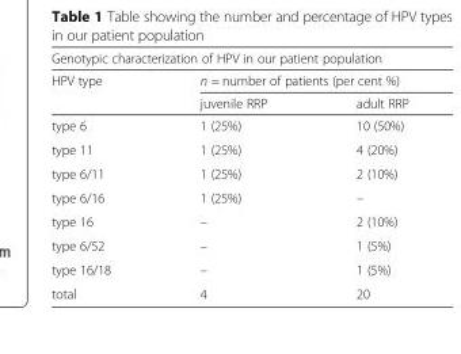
<table><thead><tr><td colspan="3">Genotypic characterization of HPV in our patient population</td></tr><tr><td rowspan="2">HPV type</td><td colspan="2">n = number of patients (per cent %)</td></tr><tr><td>juvenile RRP</td><td>adult RRP</td></tr></thead><tbody><tr><td>type 6</td><td>1 (25%)</td><td>10 (50%)</td></tr><tr><td>type 11</td><td>1 (25%)</td><td>4 (20%)</td></tr><tr><td>type 6/11</td><td>1 (25%)</td><td>2 (10%)</td></tr><tr><td>type 6/16</td><td>1 (25%)</td><td>–</td></tr><tr><td>type 16</td><td>–</td><td>2 (10%)</td></tr><tr><td>type 6/52</td><td>–</td><td>1 (5%)</td></tr><tr><td>type 16/18</td><td>–</td><td>1 (5%)</td></tr><tr><td>total</td><td>4</td><td>20</td></tr></tbody></table>